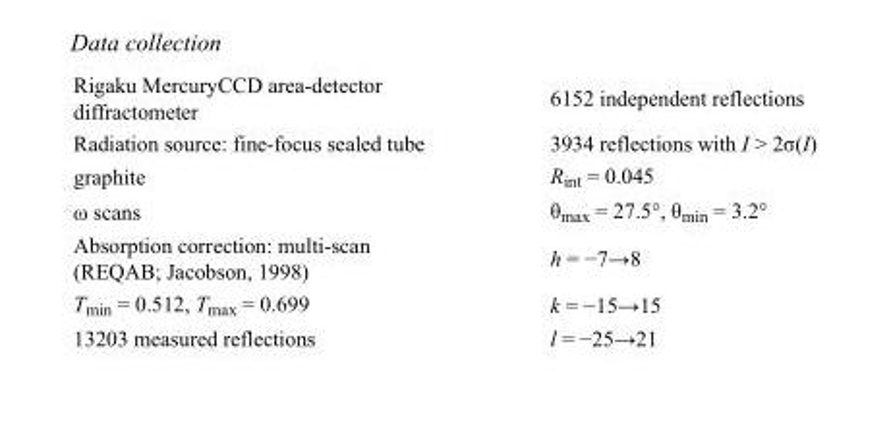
<table><tbody><tr><td>Rigaku MercuryCCD area-detector diffractometer</td><td>6152 independent reflections</td></tr><tr><td>Radiation source: fine-focus sealed tube</td><td>3934 reflections with I &gt; 2σ(I)</td></tr><tr><td>graphite</td><td>R<sub>int</sub> = 0.045</td></tr><tr><td>ω scans</td><td>θ<sub>max</sub> = 27.5°, θ<sub>min</sub> = 3.2°</td></tr><tr><td>Absorption correction: multi-scan (REQAB; Jacobson, 1998)</td><td>h = −7→8</td></tr><tr><td>T<sub>min</sub> = 0.512, T<sub>max</sub> = 0.699</td><td>k = −15→15</td></tr><tr><td>13203 measured reflections</td><td>l = −25→21</td></tr></tbody></table>